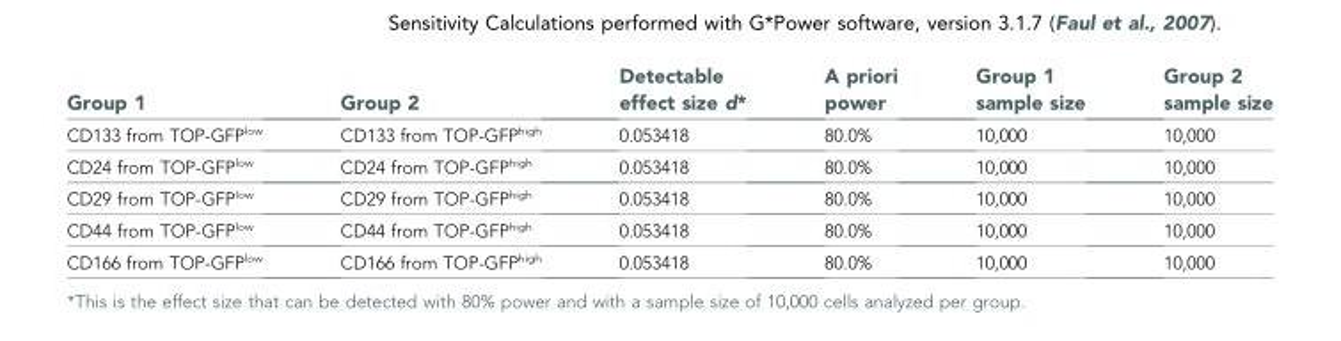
<table><thead><tr><td>Group 1</td><td>Group 2</td><td>Detectable effect size d*</td><td>A priori power</td><td>Group 1 sample size</td><td>Group 2 sample size</td></tr></thead><tbody><tr><td>CD133 from TOP-GFP<sup>low</sup></td><td>CD133 from TOP-GFP<sup>high</sup></td><td>0.053418</td><td>80.0%</td><td>10,000</td><td>10,000</td></tr><tr><td>CD24 from TOP-GFP<sup>low</sup></td><td>CD24 from TOP-GFP<sup>high</sup></td><td>0.053418</td><td>80.0%</td><td>10,000</td><td>10,000</td></tr><tr><td>CD29 from TOP-GFP<sup>low</sup></td><td>CD29 from TOP-GFP<sup>high</sup></td><td>0.053418</td><td>80.0%</td><td>10,000</td><td>10,000</td></tr><tr><td>CD44 from TOP-GFP<sup>low</sup></td><td>CD44 from TOP-GFP<sup>high</sup></td><td>0.053418</td><td>80.0%</td><td>10,000</td><td>10,000</td></tr><tr><td>CD166 from TOP-GFP<sup>low</sup></td><td>CD166 from TOP-GFP<sup>high</sup></td><td>0.053418</td><td>80.0%</td><td>10,000</td><td>10,000</td></tr></tbody></table>